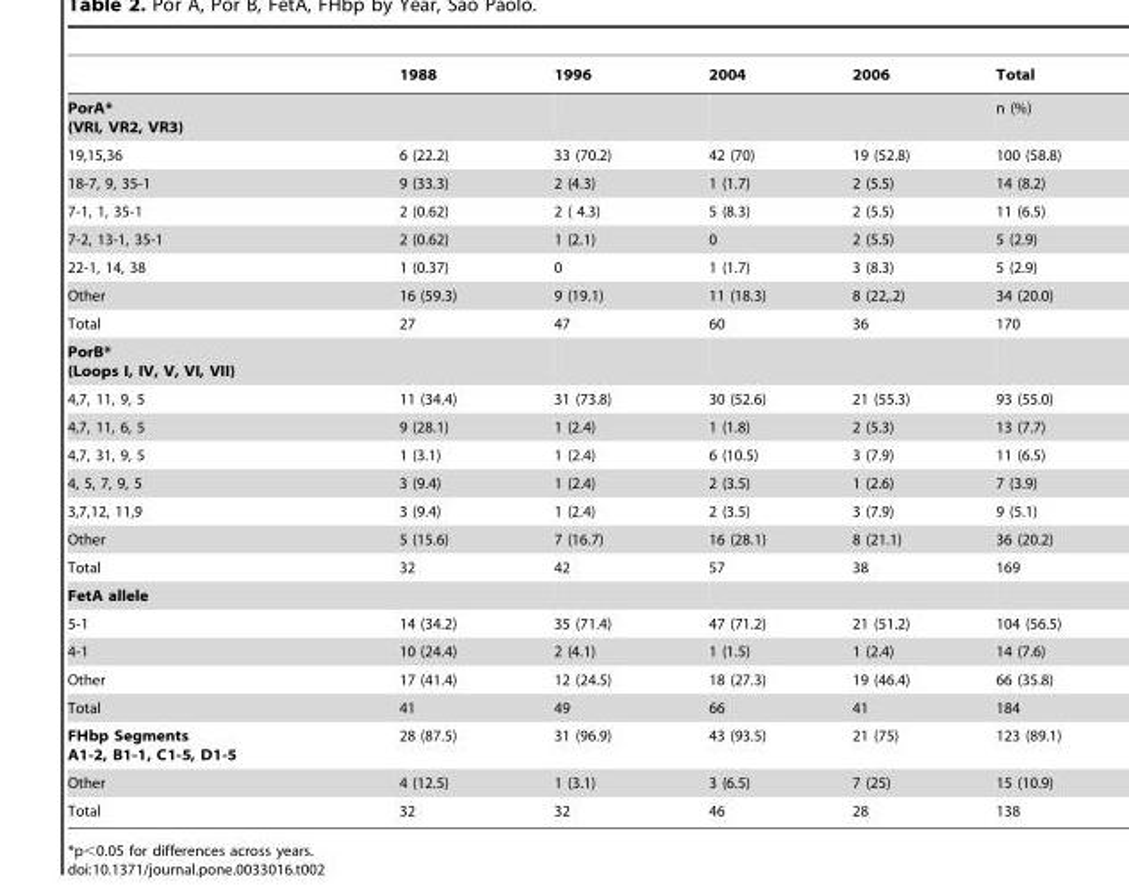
<table><thead><tr><td></td><td>1988</td><td>1996</td><td>2004</td><td>2006</td><td>Total</td></tr></thead><tbody><tr><td>PorA* (VRI, VR2, VR3)</td><td></td><td></td><td></td><td></td><td>n (%)</td></tr><tr><td>19,15,36</td><td>6 (22.2)</td><td>33 (70.2)</td><td>42 (70)</td><td>19 (52.8)</td><td>100 (58.8)</td></tr><tr><td>18-7, 9, 35-1</td><td>9 (33.3)</td><td>2 (4.3)</td><td>1 (1.7)</td><td>2 (5.5)</td><td>14 (8.2)</td></tr><tr><td>7-1, 1, 35-1</td><td>2 (0.62)</td><td>2 ( 4.3)</td><td>5 (8.3)</td><td>2 (5.5)</td><td>11 (6.5)</td></tr><tr><td>7-2, 13-1, 35-1</td><td>2 (0.62)</td><td>1 (2.1)</td><td>0</td><td>2 (5.5)</td><td>5 (2.9)</td></tr><tr><td>22-1, 14, 38</td><td>1 (0.37)</td><td>0</td><td>1 (1.7)</td><td>3 (8.3)</td><td>5 (2.9)</td></tr><tr><td>Other</td><td>16 (59.3)</td><td>9 (19.1)</td><td>11 (18.3)</td><td>8 (22,.2)</td><td>34 (20.0)</td></tr><tr><td>Total</td><td>27</td><td>47</td><td>60</td><td>36</td><td>170</td></tr><tr><td colspan="6">PorB* (Loops I, IV, V, VI, VII)</td></tr><tr><td>4,7, 11, 9, 5</td><td>11 (34.4)</td><td>31 (73.8)</td><td>30 (52.6)</td><td>21 (55.3)</td><td>93 (55.0)</td></tr><tr><td>4,7, 11, 6, 5</td><td>9 (28.1)</td><td>1 (2.4)</td><td>1 (1.8)</td><td>2 (5.3)</td><td>13 (7.7)</td></tr><tr><td>4,7, 31, 9, 5</td><td>1 (3.1)</td><td>1 (2.4)</td><td>6 (10.5)</td><td>3 (7.9)</td><td>11 (6.5)</td></tr><tr><td>4, 5, 7, 9, 5</td><td>3 (9.4)</td><td>1 (2.4)</td><td>2 (3.5)</td><td>1 (2.6)</td><td>7 (3.9)</td></tr><tr><td>3,7,12, 11,9</td><td>3 (9.4)</td><td>1 (2.4)</td><td>2 (3.5)</td><td>3 (7.9)</td><td>9 (5.1)</td></tr><tr><td>Other</td><td>5 (15.6)</td><td>7 (16.7)</td><td>16 (28.1)</td><td>8 (21.1)</td><td>36 (20.2)</td></tr><tr><td>Total</td><td>32</td><td>42</td><td>57</td><td>38</td><td>169</td></tr><tr><td colspan="6">FetA allele</td></tr><tr><td>5-1</td><td>14 (34.2)</td><td>35 (71.4)</td><td>47 (71.2)</td><td>21 (51.2)</td><td>104 (56.5)</td></tr><tr><td>4-1</td><td>10 (24.4)</td><td>2 (4.1)</td><td>1 (1.5)</td><td>1 (2.4)</td><td>14 (7.6)</td></tr><tr><td>Other</td><td>17 (41.4)</td><td>12 (24.5)</td><td>18 (27.3)</td><td>19 (46.4)</td><td>66 (35.8)</td></tr><tr><td>Total</td><td>41</td><td>49</td><td>66</td><td>41</td><td>184</td></tr><tr><td>FHbp Segments A1-2, B1-1, C1-5, D1-5</td><td>28 (87.5)</td><td>31 (96.9)</td><td>43 (93.5)</td><td>21 (75)</td><td>123 (89.1)</td></tr><tr><td>Other</td><td>4 (12.5)</td><td>1 (3.1)</td><td>3 (6.5)</td><td>7 (25)</td><td>15 (10.9)</td></tr><tr><td>Total</td><td>32</td><td>32</td><td>46</td><td>28</td><td>138</td></tr></tbody></table>